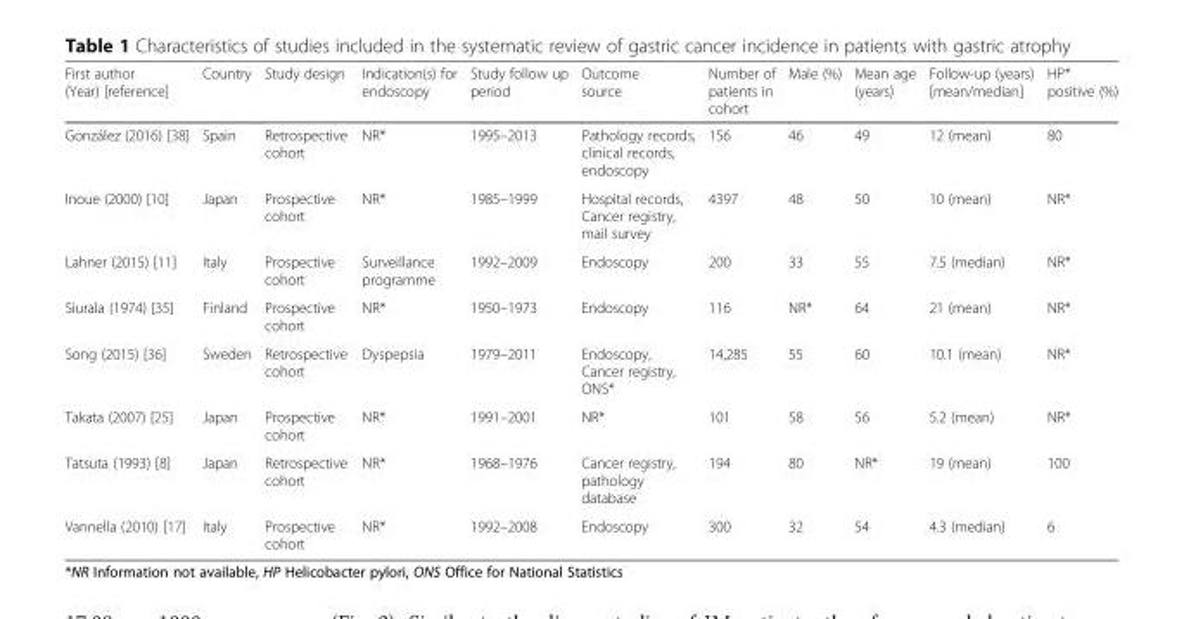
<table><thead><tr><td>First author (Year) [reference]</td><td>Country</td><td>Study design</td><td>Indication(s) for endoscopy</td><td>Study follow up period</td><td>Outcome source</td><td>Number of patients in cohort</td><td>Male (%)</td><td>Mean age (years)</td><td>Follow-up (years) [mean/median]</td><td>HP* positive (%)</td></tr></thead><tbody><tr><td>González (2016) [38]</td><td>Spain</td><td>Retrospective cohort</td><td>NR*</td><td>1995–2013</td><td>Pathology records, clinical records, endoscopy</td><td>156</td><td>46</td><td>49</td><td>12 (mean)</td><td>80</td></tr><tr><td>Inoue (2000) [10]</td><td>Japan</td><td>Prospective cohort</td><td>NR*</td><td>1985–1999</td><td>Hospital records, Cancer registry, mail survey</td><td>4397</td><td>48</td><td>50</td><td>10 (mean)</td><td>NR*</td></tr><tr><td>Lahner (2015) [11]</td><td>Italy</td><td>Prospective cohort</td><td>Surveillance programme</td><td>1992–2009</td><td>Endoscopy</td><td>200</td><td>33</td><td>55</td><td>7.5 (median)</td><td>NR*</td></tr><tr><td>Siurala (1974) [35]</td><td>Finland</td><td>Prospective cohort</td><td>NR*</td><td>1950–1973</td><td>Endoscopy</td><td>116</td><td>NR*</td><td>64</td><td>21 (mean)</td><td>NR*</td></tr><tr><td>Song (2015) [36]</td><td>Sweden</td><td>Retrospective cohort</td><td>Dyspepsia</td><td>1979–2011</td><td>Endoscopy, Cancer registry, ONS*</td><td>14,285</td><td>55</td><td>60</td><td>10.1 (mean)</td><td>NR*</td></tr><tr><td>Takata (2007) [25]</td><td>Japan</td><td>Prospective cohort</td><td>NR*</td><td>1991–2001</td><td>NR*</td><td>101</td><td>58</td><td>56</td><td>5.2 (mean)</td><td>NR*</td></tr><tr><td>Tatsuta (1993) [8]</td><td>Japan</td><td>Retrospective cohort</td><td>NR*</td><td>1968–1976</td><td>Cancer registry, pathology database</td><td>194</td><td>80</td><td>NR*</td><td>19 (mean)</td><td>100</td></tr><tr><td>Vannella (2010) [17]</td><td>Italy</td><td>Prospective cohort</td><td>NR*</td><td>1992–2008</td><td>Endoscopy</td><td>300</td><td>32</td><td>54</td><td>4.3 (median)</td><td>6</td></tr></tbody></table>